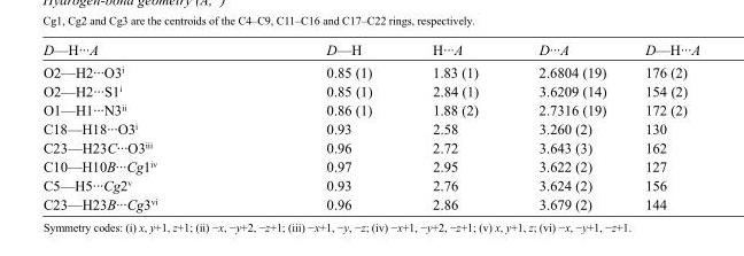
<table><tbody><tr><td>D—H···A</td><td>D—H</td><td>H···A</td><td>D···A</td><td>D—H···A</td></tr><tr><td>O2—H2···O3<sup>i</sup></td><td>0.85 (1)</td><td>1.83 (1)</td><td>2.6804 (19)</td><td>176 (2)</td></tr><tr><td>O2—H2···S1<sup>i</sup></td><td>0.85 (1)</td><td>2.84 (1)</td><td>3.6209 (14)</td><td>154 (2)</td></tr><tr><td>O1—H1···N3<sup>ii</sup></td><td>0.86 (1)</td><td>1.88 (2)</td><td>2.7316 (19)</td><td>172 (2)</td></tr><tr><td>C18—H18···O3<sup>i</sup></td><td>0.93</td><td>2.58</td><td>3.260 (2)</td><td>130</td></tr><tr><td>C23—H23C···O3<sup>iii</sup></td><td>0.96</td><td>2.72</td><td>3.643 (3)</td><td>162</td></tr><tr><td>C10—H10B···Cg1<sup>iv</sup></td><td>0.97</td><td>2.95</td><td>3.622 (2)</td><td>127</td></tr><tr><td>C5—H5···Cg2<sup>v</sup></td><td>0.93</td><td>2.76</td><td>3.624 (2)</td><td>156</td></tr><tr><td>C23—H23B···Cg3<sup>vi</sup></td><td>0.96</td><td>2.86</td><td>3.679 (2)</td><td>144</td></tr></tbody></table>